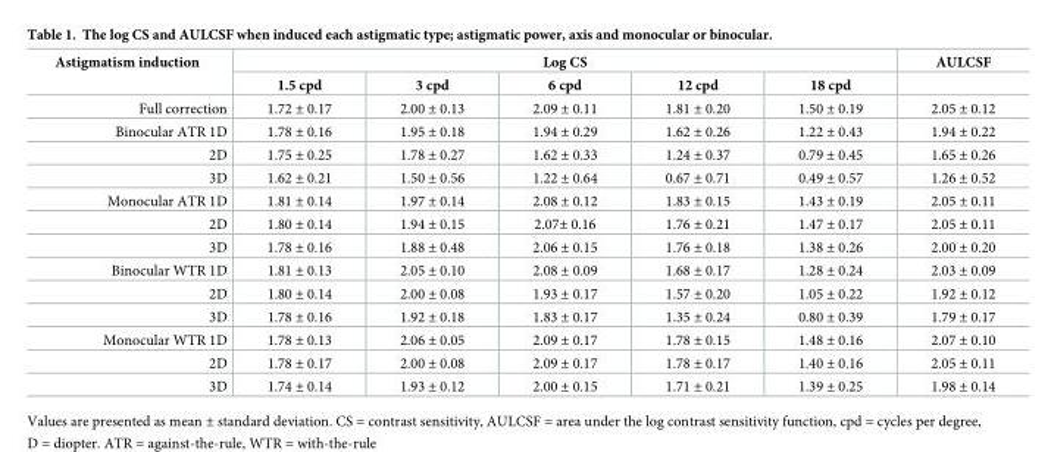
<table><thead><tr><td rowspan="2">Astigmatism induction</td><td colspan="5">Log CS</td><td rowspan="2">AULCSF</td></tr><tr><td>1.5 cpd</td><td>3 cpd</td><td>6 cpd</td><td>12 cpd</td><td>18 cpd</td></tr></thead><tbody><tr><td>Full correction</td><td>1.72 ± 0.17</td><td>2.00 ± 0.13</td><td>2.09 ± 0.11</td><td>1.81 ± 0.20</td><td>1.50 ± 0.19</td><td>2.05 ± 0.12</td></tr><tr><td>Binocular ATR 1D</td><td>1.78 ± 0.16</td><td>1.95 ± 0.18</td><td>1.94 ± 0.29</td><td>1.62 ± 0.26</td><td>1.22 ± 0.43</td><td>1.94 ± 0.22</td></tr><tr><td>2D</td><td>1.75 ± 0.25</td><td>1.78 ± 0.27</td><td>1.62 ± 0.33</td><td>1.24 ± 0.37</td><td>0.79 ± 0.45</td><td>1.65 ± 0.26</td></tr><tr><td>3D</td><td>1.62 ± 0.21</td><td>1.50 ± 0.56</td><td>1.22 ± 0.64</td><td>0.67 ± 0.71</td><td>0.49 ± 0.57</td><td>1.26 ± 0.52</td></tr><tr><td>Monocular ATR 1D</td><td>1.81 ± 0.14</td><td>1.97 ± 0.14</td><td>2.08 ± 0.12</td><td>1.83 ± 0.15</td><td>1.43 ± 0.19</td><td>2.05 ± 0.11</td></tr><tr><td>2D</td><td>1.80 ± 0.14</td><td>1.94 ± 0.15</td><td>2.07± 0.16</td><td>1.76 ± 0.21</td><td>1.47 ± 0.17</td><td>2.05 ± 0.11</td></tr><tr><td>3D</td><td>1.78 ± 0.16</td><td>1.88 ± 0.48</td><td>2.06 ± 0.15</td><td>1.76 ± 0.18</td><td>1.38 ± 0.26</td><td>2.00 ± 0.20</td></tr><tr><td>Binocular WTR 1D</td><td>1.81 ± 0.13</td><td>2.05 ± 0.10</td><td>2.08 ± 0.09</td><td>1.68 ± 0.17</td><td>1.28 ± 0.24</td><td>2.03 ± 0.09</td></tr><tr><td>2D</td><td>1.80 ± 0.14</td><td>2.00 ± 0.08</td><td>1.93 ± 0.17</td><td>1.57 ± 0.20</td><td>1.05 ± 0.22</td><td>1.92 ± 0.12</td></tr><tr><td>3D</td><td>1.78 ± 0.16</td><td>1.92 ± 0.18</td><td>1.83 ± 0.17</td><td>1.35 ± 0.24</td><td>0.80 ± 0.39</td><td>1.79 ± 0.17</td></tr><tr><td>Monocular WTR 1D</td><td>1.78 ± 0.13</td><td>2.06 ± 0.05</td><td>2.09 ± 0.17</td><td>1.78 ± 0.15</td><td>1.48 ± 0.16</td><td>2.07 ± 0.10</td></tr><tr><td>2D</td><td>1.78 ± 0.17</td><td>2.00 ± 0.08</td><td>2.09 ± 0.17</td><td>1.78 ± 0.17</td><td>1.40 ± 0.16</td><td>2.05 ± 0.11</td></tr><tr><td>3D</td><td>1.74 ± 0.14</td><td>1.93 ± 0.12</td><td>2.00 ± 0.15</td><td>1.71 ± 0.21</td><td>1.39 ± 0.25</td><td>1.98 ± 0.14</td></tr></tbody></table>